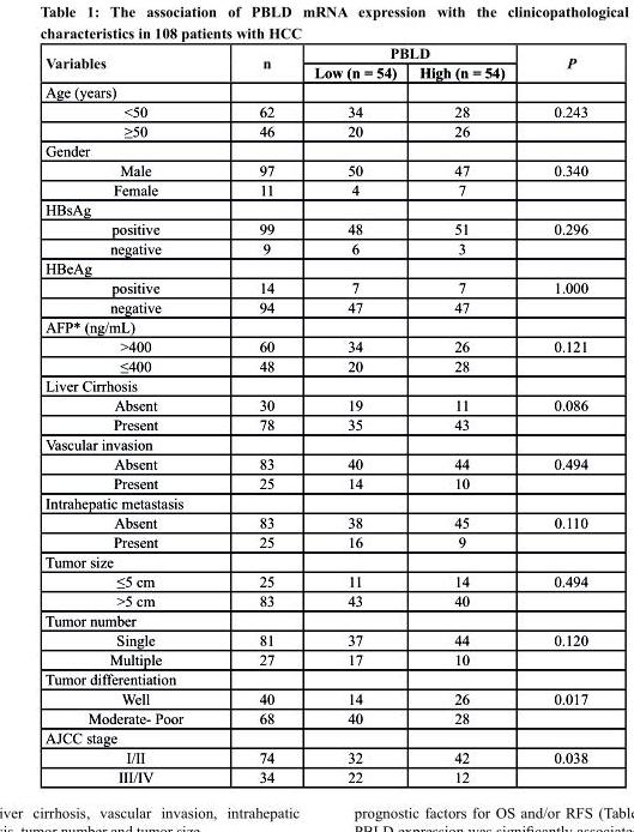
<table><thead><tr><td rowspan="2">Variables</td><td rowspan="2">n</td><td colspan="2">Pbld</td><td rowspan="2">P</td></tr><tr><td>low (n = 54)</td><td>High (n = 54)</td></tr></thead><tbody><tr><td colspan="5">Age (years)</td></tr><tr><td>&lt;50</td><td>62</td><td>34</td><td>28</td><td>0.243</td></tr><tr><td>≥50</td><td>46</td><td>20</td><td>26</td><td></td></tr><tr><td colspan="5">Gender</td></tr><tr><td>Male</td><td>97</td><td>50</td><td>47</td><td>0.340</td></tr><tr><td>Female</td><td>11</td><td>4</td><td>7</td><td></td></tr><tr><td colspan="5">HBsAg</td></tr><tr><td>positive</td><td>99</td><td>48</td><td>51</td><td>0.296</td></tr><tr><td>negative</td><td>9</td><td>6</td><td>3</td><td></td></tr><tr><td colspan="5">HBeAg</td></tr><tr><td>positive</td><td>14</td><td>7</td><td>7</td><td>1.000</td></tr><tr><td>negative</td><td>94</td><td>47</td><td>47</td><td></td></tr><tr><td colspan="5">AFP* (ng/mL)</td></tr><tr><td>&gt;400</td><td>60</td><td>34</td><td>26</td><td>0.121</td></tr><tr><td>≤400</td><td>48</td><td>20</td><td>28</td><td></td></tr><tr><td colspan="5">Liver Cirrhosis</td></tr><tr><td>Absent</td><td>30</td><td>19</td><td>11</td><td>0.086</td></tr><tr><td>Present</td><td>78</td><td>35</td><td>43</td><td></td></tr><tr><td colspan="5">Vascular invasion</td></tr><tr><td>Absent</td><td>83</td><td>40</td><td>44</td><td>0.494</td></tr><tr><td>Present</td><td>25</td><td>14</td><td>10</td><td></td></tr><tr><td colspan="5">Intrahepatic metastasis</td></tr><tr><td>Absent</td><td>83</td><td>38</td><td>45</td><td>0.110</td></tr><tr><td>Present</td><td>25</td><td>16</td><td>9</td><td></td></tr><tr><td colspan="5">Tumor size</td></tr><tr><td>≤5 cm</td><td>25</td><td>11</td><td>14</td><td>0.494</td></tr><tr><td>&gt;5 cm</td><td>83</td><td>43</td><td>40</td><td></td></tr><tr><td colspan="5">Tumor number</td></tr><tr><td>Single</td><td>81</td><td>37</td><td>44</td><td>0.120</td></tr><tr><td>Multiple</td><td>27</td><td>17</td><td>10</td><td></td></tr><tr><td colspan="5">Tumor differentiation</td></tr><tr><td>Well</td><td>40</td><td>14</td><td>26</td><td>0.017</td></tr><tr><td>Moderate- Poor</td><td>68</td><td>40</td><td>28</td><td></td></tr><tr><td colspan="5">AJCC stage</td></tr><tr><td>I/II</td><td>74</td><td>32</td><td>42</td><td>0.038</td></tr><tr><td>III/IV</td><td>34</td><td>22</td><td>12</td><td></td></tr></tbody></table>